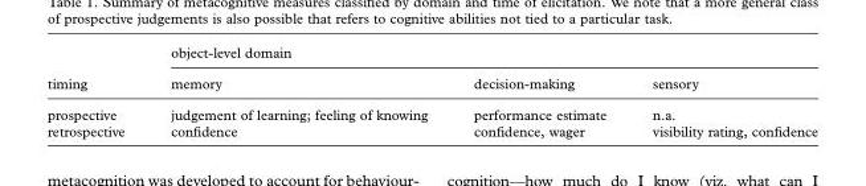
<table><thead><tr><td rowspan="2">timing</td><td colspan="3">object-level domain</td></tr><tr><td>memory</td><td>decision-making</td><td>sensory</td></tr></thead><tbody><tr><td>prospective</td><td>judgement of learning; feeling of knowing</td><td>performance estimate</td><td>n.a.</td></tr><tr><td>retrospective</td><td>confidence</td><td>confidence, wager</td><td>visibility rating, confidence</td></tr></tbody></table>